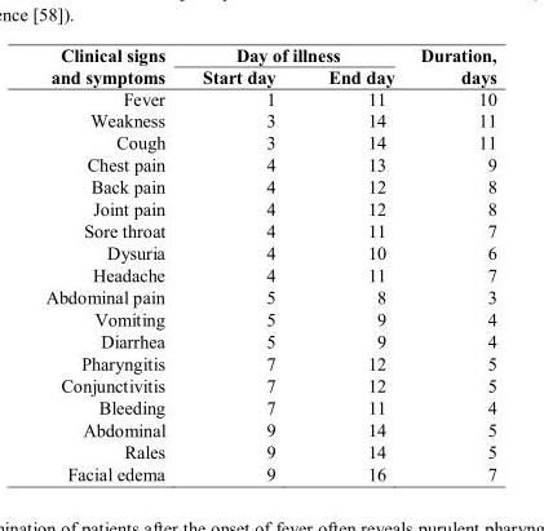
<table><thead><tr><td rowspan="2">Clinical signs and symptoms</td><td colspan="2">Day of illness</td><td rowspan="2">Duration, days</td></tr><tr><td>Start day</td><td>End day</td></tr></thead><tbody><tr><td>Fever</td><td>1</td><td>11</td><td>10</td></tr><tr><td>Weakness</td><td>3</td><td>14</td><td>11</td></tr><tr><td>Cough</td><td>3</td><td>14</td><td>11</td></tr><tr><td>Chest pain</td><td>4</td><td>13</td><td>9</td></tr><tr><td>Back pain</td><td>4</td><td>12</td><td>8</td></tr><tr><td>Joint pain</td><td>4</td><td>12</td><td>8</td></tr><tr><td>Sore throat</td><td>4</td><td>11</td><td>7</td></tr><tr><td>Dysuria</td><td>4</td><td>10</td><td>6</td></tr><tr><td>Headache</td><td>4</td><td>11</td><td>7</td></tr><tr><td>Abdominal pain</td><td>5</td><td>8</td><td>3</td></tr><tr><td>Vomiting</td><td>5</td><td>9</td><td>4</td></tr><tr><td>Diarrhea</td><td>5</td><td>9</td><td>4</td></tr><tr><td>Pharyngitis</td><td>7</td><td>12</td><td>5</td></tr><tr><td>Conjunctivitis</td><td>7</td><td>12</td><td>5</td></tr><tr><td>Bleeding</td><td>7</td><td>11</td><td>4</td></tr><tr><td>Abdominal</td><td>9</td><td>14</td><td>5</td></tr><tr><td>Rales</td><td>9</td><td>14</td><td>5</td></tr><tr><td>Facial edema</td><td>9</td><td>16</td><td>7</td></tr></tbody></table>